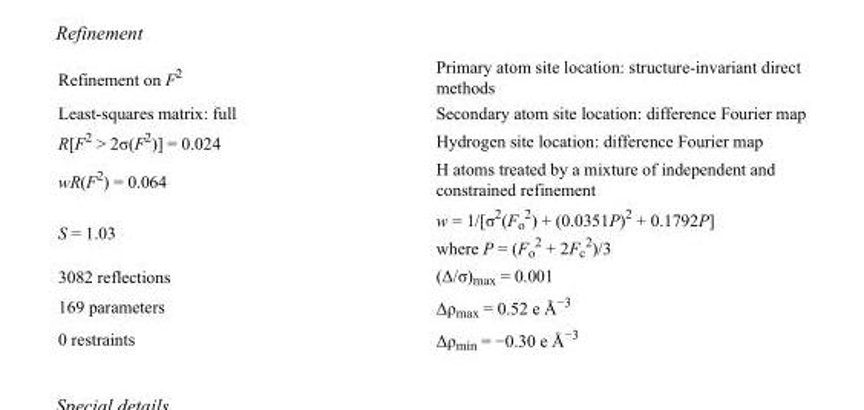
<table><tbody><tr><td>Refinement on F<sup>2</sup></td><td>Primary atom site location: structure-invariant direct methods</td></tr><tr><td>Least-squares matrix: full</td><td>Secondary atom site location: difference Fourier map</td></tr><tr><td>R[F<sup>2</sup> &gt; 2σ(F<sup>2</sup>)] = 0.024</td><td>Hydrogen site location: difference Fourier map</td></tr><tr><td>wR(F<sup>2</sup>) = 0.064</td><td>H atoms treated by a mixture of independent and constrained refinement</td></tr><tr><td>S = 1.03</td><td>w = 1/[σ<sup>2</sup>(F<sub>o</sub> <sup>2</sup>) + (0.0351P)<sup>2</sup> + 0.1792P] where P = (F<sub>o</sub> <sup>2</sup> + 2F<sub>c</sub> <sup>2</sup>)/3</td></tr><tr><td>3082 reflections</td><td>(Δ/σ)<sub>max</sub> = 0.001</td></tr><tr><td>169 parameters</td><td>Δρ<sub>max</sub> = 0.52 e Å<sup>−3</sup></td></tr><tr><td>0 restraints</td><td>Δρ<sub>min</sub> = −0.30 e Å<sup>−3</sup></td></tr></tbody></table>